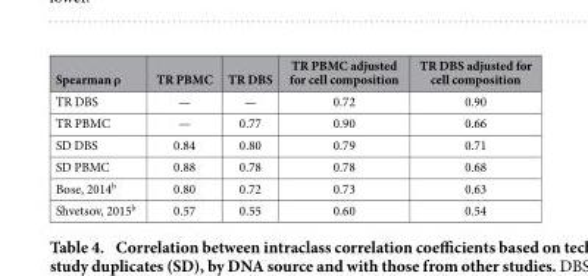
<table><thead><tr><td>Spearman ρ</td><td>TR PBMC</td><td>TR DBS</td><td>TR PBMC adjusted for cell composition</td><td>TR DBS adjusted for cell composition</td></tr></thead><tbody><tr><td>TR DBS</td><td>—</td><td>—</td><td>0.72</td><td>0.90</td></tr><tr><td>TR PBMC</td><td>—</td><td>0.77</td><td>0.90</td><td>0.66</td></tr><tr><td>SD DBS</td><td>0.84</td><td>0.80</td><td>0.79</td><td>0.71</td></tr><tr><td>SD PBMC</td><td>0.88</td><td>0.78</td><td>0.78</td><td>0.68</td></tr><tr><td>Bose, 2014<sup>b</sup></td><td>0.80</td><td>0.72</td><td>0.73</td><td>0.63</td></tr><tr><td>Shvetsov, 2015<sup>b</sup></td><td>0.57</td><td>0.55</td><td>0.60</td><td>0.54</td></tr></tbody></table>